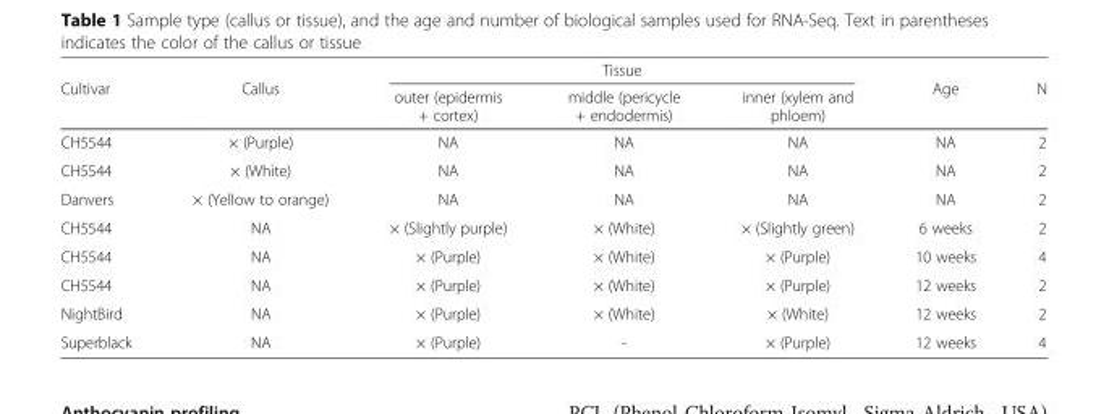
<table><thead><tr><td rowspan="2">Cultivar</td><td rowspan="2">Callus</td><td colspan="3">Tissue</td><td rowspan="2">Age</td><td rowspan="2">N</td></tr><tr><td>outer (epidermis + cortex)</td><td>middle (pericycle + endodermis)</td><td>inner (xylem and phloem)</td></tr></thead><tbody><tr><td>CH5544</td><td>× (Purple)</td><td>NA</td><td>NA</td><td>NA</td><td>NA</td><td>2</td></tr><tr><td>CH5544</td><td>× (White)</td><td>NA</td><td>NA</td><td>NA</td><td>NA</td><td>2</td></tr><tr><td>Danvers</td><td>× (Yellow to orange)</td><td>NA</td><td>NA</td><td>NA</td><td>NA</td><td>2</td></tr><tr><td>CH5544</td><td>NA</td><td>× (Slightly purple)</td><td>× (White)</td><td>× (Slightly green)</td><td>6 weeks</td><td>2</td></tr><tr><td>CH5544</td><td>NA</td><td>× (Purple)</td><td>× (White)</td><td>× (Purple)</td><td>10 weeks</td><td>4</td></tr><tr><td>CH5544</td><td>NA</td><td>× (Purple)</td><td>× (White)</td><td>× (Purple)</td><td>12 weeks</td><td>2</td></tr><tr><td>NightBird</td><td>NA</td><td>× (Purple)</td><td>× (White)</td><td>× (White)</td><td>12 weeks</td><td>2</td></tr><tr><td>Superblack</td><td>NA</td><td>× (Purple)</td><td>-</td><td>× (Purple)</td><td>12 weeks</td><td>4</td></tr></tbody></table>